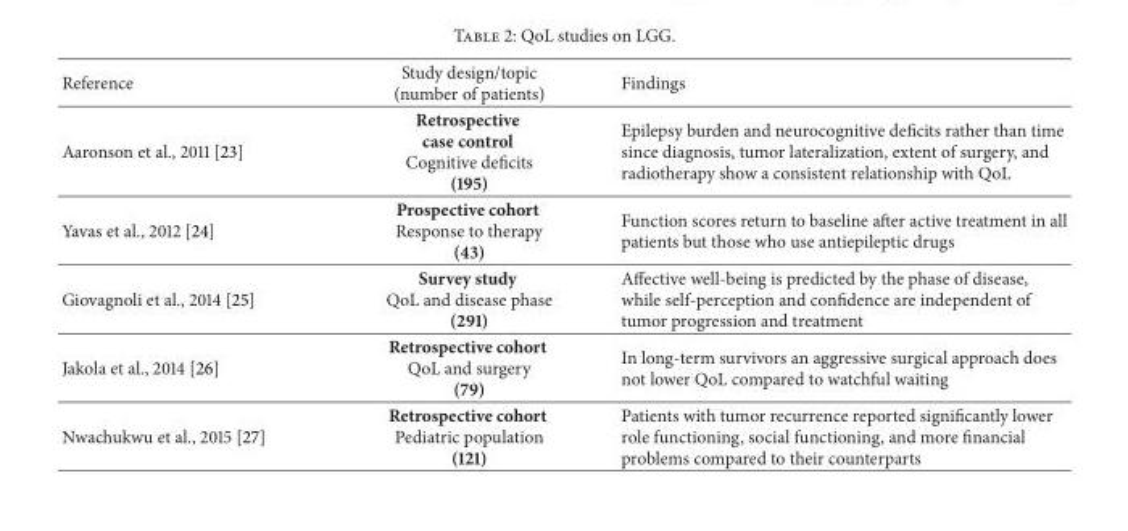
<table><thead><tr><td>Reference</td><td>Study design/topic (number of patients)</td><td>Findings</td></tr></thead><tbody><tr><td>Aaronson et al., 2011 [23]</td><td>Retrospective case control Cognitive deficits (195)</td><td>Epilepsy burden and neurocognitive deficits rather than time since diagnosis, tumor lateralization, extent of surgery, and radiotherapy show a consistent relationship with QoL</td></tr><tr><td>Yavas et al., 2012 [24]</td><td>Prospective cohort Response to therapy (43)</td><td>Function scores return to baseline after active treatment in all patients but those who use antiepileptic drugs</td></tr><tr><td>Giovagnoli et al., 2014 [25]</td><td>Survey study QoL and disease phase (291)</td><td>Affective well-being is predicted by the phase of disease, while self-perception and confidence are independent of tumor progression and treatment</td></tr><tr><td>Jakola et al., 2014 [26]</td><td>Retrospective cohort QoL and surgery (79)</td><td>In long-term survivors an aggressive surgical approach does not lower QoL compared to watchful waiting</td></tr><tr><td>Nwachukwu et al., 2015 [27]</td><td>Retrospective cohort Pediatric population (121)</td><td>Patients with tumor recurrence reported significantly lower role functioning, social functioning, and more financial problems compared to their counterparts</td></tr></tbody></table>